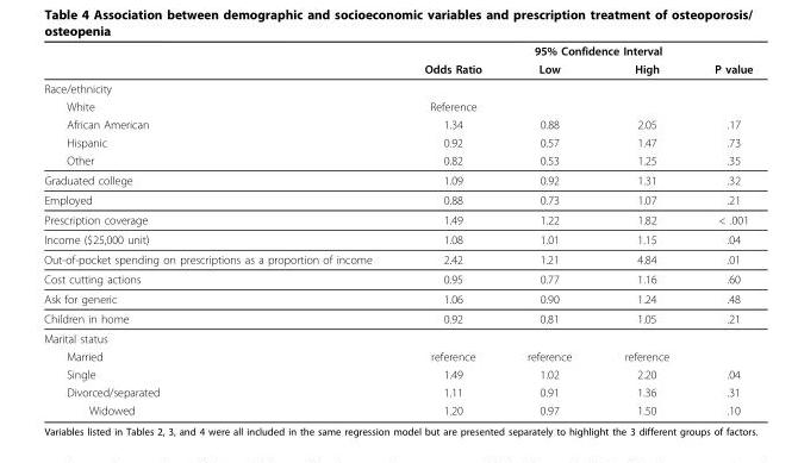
<table><thead><tr><td rowspan="2"></td><td rowspan="2">Odds Ratio</td><td colspan="2">95% Confidence Interval</td><td rowspan="2">P value</td></tr><tr><td>Low</td><td>High</td></tr></thead><tbody><tr><td colspan="5">Race/ethnicity</td></tr><tr><td>White</td><td>Reference</td><td></td><td></td><td></td></tr><tr><td>African American</td><td>1.34</td><td>0.88</td><td>2.05</td><td>.17</td></tr><tr><td>Hispanic</td><td>0.92</td><td>0.57</td><td>1.47</td><td>.73</td></tr><tr><td>Other</td><td>0.82</td><td>0.53</td><td>1.25</td><td>.35</td></tr><tr><td>Graduated college</td><td>1.09</td><td>0.92</td><td>1.31</td><td>.32</td></tr><tr><td>Employed</td><td>0.88</td><td>0.73</td><td>1.07</td><td>.21</td></tr><tr><td>Prescription coverage</td><td>1.49</td><td>1.22</td><td>1.82</td><td>&lt; .001</td></tr><tr><td>Income ($25,000 unit)</td><td>1.08</td><td>1.01</td><td>1.15</td><td>.04</td></tr><tr><td>Out-of-pocket spending on prescriptions as a proportion of income</td><td>2.42</td><td>1.21</td><td>4.84</td><td>.01</td></tr><tr><td>Cost cutting actions</td><td>0.95</td><td>0.77</td><td>1.16</td><td>.60</td></tr><tr><td>Ask for generic</td><td>1.06</td><td>0.90</td><td>1.24</td><td>.48</td></tr><tr><td>Children in home</td><td>0.92</td><td>0.81</td><td>1.05</td><td>.21</td></tr><tr><td colspan="5">Marital status</td></tr><tr><td>Married</td><td>reference</td><td>reference</td><td>reference</td><td></td></tr><tr><td>Single</td><td>1.49</td><td>1.02</td><td>2.20</td><td>.04</td></tr><tr><td>Divorced/separated</td><td>1.11</td><td>0.91</td><td>1.36</td><td>.31</td></tr><tr><td>Widowed</td><td>1.20</td><td>0.97</td><td>1.50</td><td>.10</td></tr></tbody></table>